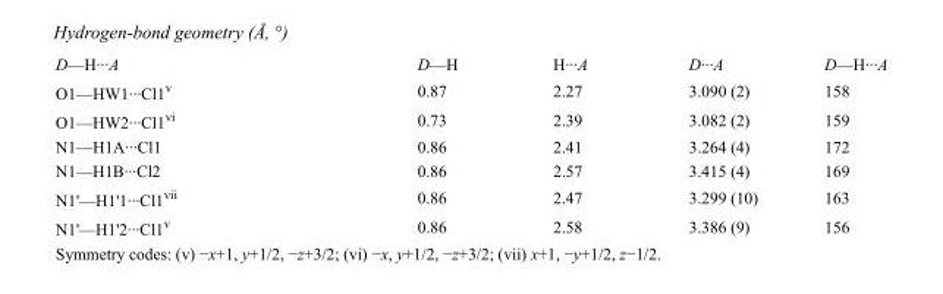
<table><tbody><tr><td>D—H···A</td><td>D—H</td><td>H···A</td><td>D···A</td><td>D—H···A</td></tr><tr><td>O1—HW1···Cl1<sup>v</sup></td><td>0.87</td><td>2.27</td><td>3.090 (2)</td><td>158</td></tr><tr><td>O1—HW2···Cl1<sup>vi</sup></td><td>0.73</td><td>2.39</td><td>3.082 (2)</td><td>159</td></tr><tr><td>N1—H1A···Cl1</td><td>0.86</td><td>2.41</td><td>3.264 (4)</td><td>172</td></tr><tr><td>N1—H1B···Cl2</td><td>0.86</td><td>2.57</td><td>3.415 (4)</td><td>169</td></tr><tr><td>N1&#x27;—H1&#x27;1···Cl1<sup>vii</sup></td><td>0.86</td><td>2.47</td><td>3.299 (10)</td><td>163</td></tr><tr><td>N1&#x27;—H1&#x27;2···Cl1<sup>v</sup></td><td>0.86</td><td>2.58</td><td>3.386 (9)</td><td>156</td></tr></tbody></table>